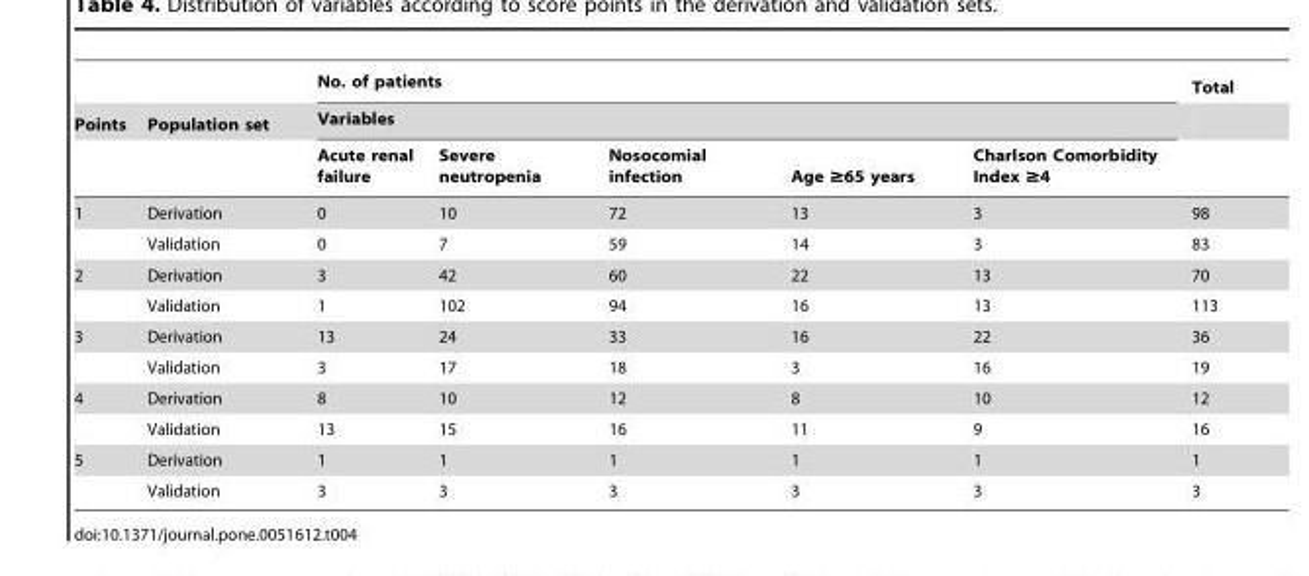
<table><thead><tr><td rowspan="3">Points</td><td rowspan="3">Population set</td><td rowspan="2" colspan="5">No. of patients Variables</td><td rowspan="3">Total</td></tr><tr></tr><tr><td>Acute renal failure</td><td>Severe neutropenia</td><td>Nosocomial infection</td><td>Age ≥65 years</td><td>Charlson Comorbidity Index ≥4</td></tr></thead><tbody><tr><td rowspan="2">1</td><td>Derivation</td><td>0</td><td>10</td><td>72</td><td>13</td><td>3</td><td>98</td></tr><tr><td>Validation</td><td>0</td><td>7</td><td>59</td><td>14</td><td>3</td><td>83</td></tr><tr><td rowspan="2">2</td><td>Derivation</td><td>3</td><td>42</td><td>60</td><td>22</td><td>13</td><td>70</td></tr><tr><td>Validation</td><td>1</td><td>102</td><td>94</td><td>16</td><td>13</td><td>113</td></tr><tr><td rowspan="2">3</td><td>Derivation</td><td>13</td><td>24</td><td>33</td><td>16</td><td>22</td><td>36</td></tr><tr><td>Validation</td><td>3</td><td>17</td><td>18</td><td>3</td><td>16</td><td>19</td></tr><tr><td rowspan="2">4</td><td>Derivation</td><td>8</td><td>10</td><td>12</td><td>8</td><td>10</td><td>12</td></tr><tr><td>Validation</td><td>13</td><td>15</td><td>16</td><td>11</td><td>9</td><td>16</td></tr><tr><td rowspan="2">5</td><td>Derivation</td><td>1</td><td>1</td><td>1</td><td>1</td><td>1</td><td>1</td></tr><tr><td>Validation</td><td>3</td><td>3</td><td>3</td><td>3</td><td>3</td><td>3</td></tr></tbody></table>